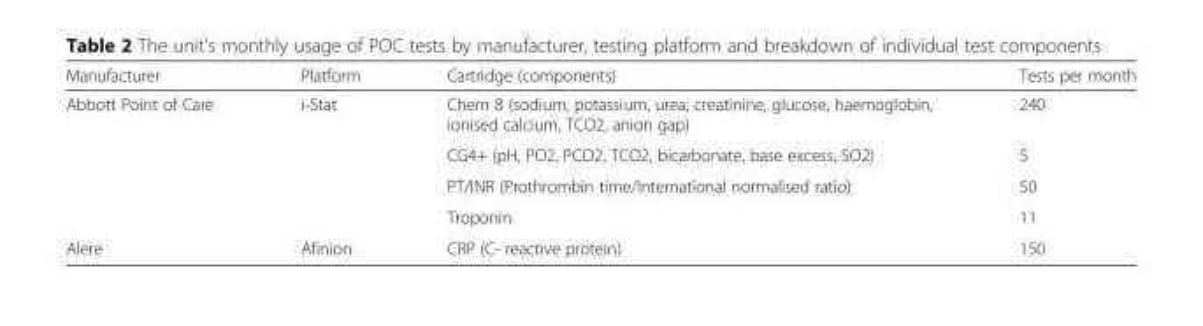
<table><thead><tr><td>Manufacturer</td><td>Platform</td><td>Cartridge (components)</td><td>Tests per month</td></tr></thead><tbody><tr><td rowspan="4">Abbott Point of Care</td><td rowspan="4">i-Stat</td><td>Chem 8 (sodium, potassium, urea, creatinine, glucose, haemoglobin, ionised calcium, TCO2, anion gap)</td><td>240</td></tr><tr><td>CG4+ (pH, PO2, PCO2, TCO2, bicarbonate, base excess, SO2)</td><td>5</td></tr><tr><td>PT/INR (Prothrombin time/International normalised ratio)</td><td>50</td></tr><tr><td>Troponin</td><td>11</td></tr><tr><td>Alere</td><td>Afinion</td><td>CRP (C- reactive protein)</td><td>150</td></tr></tbody></table>